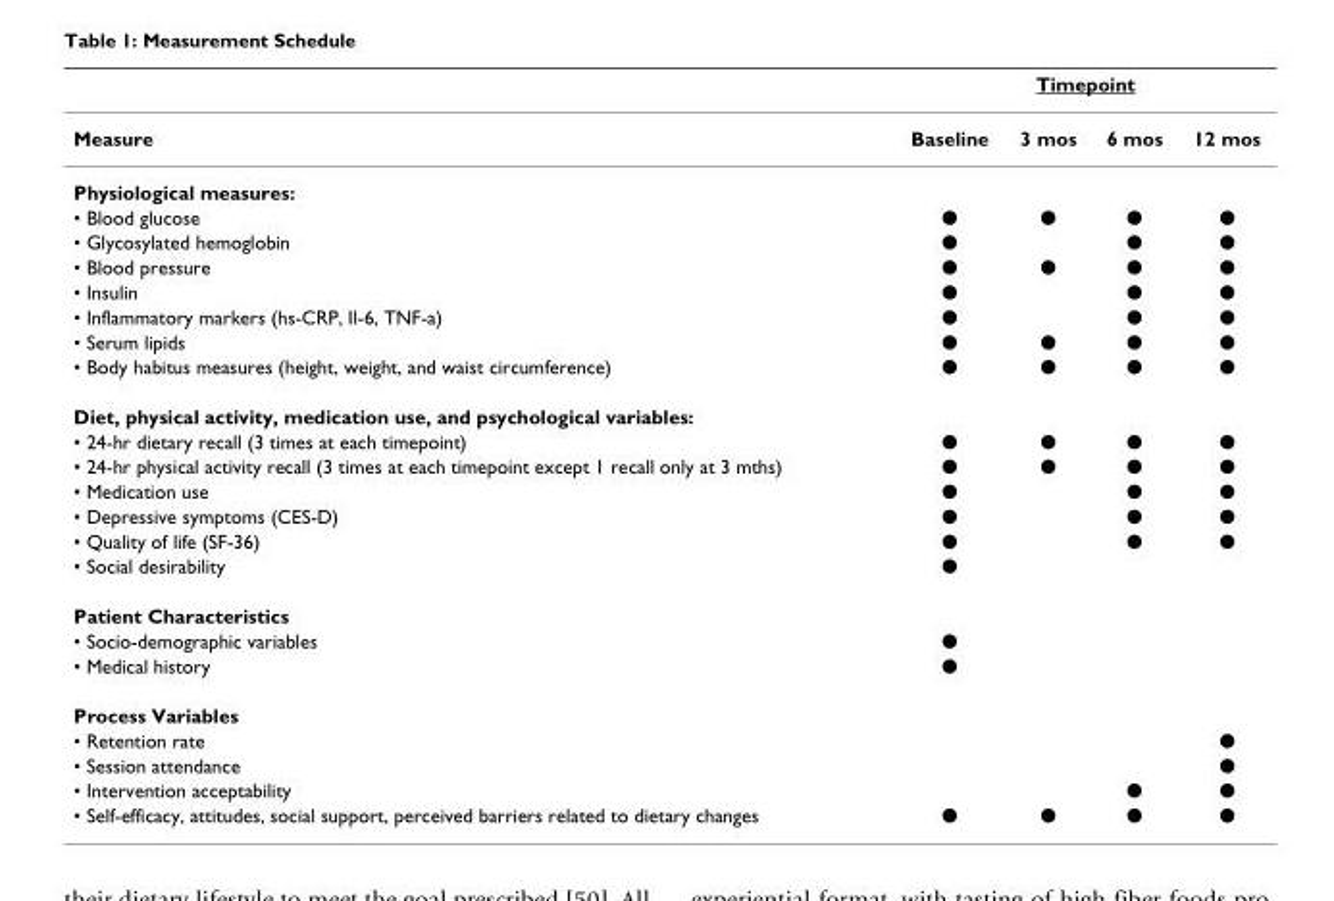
<table><thead><tr><td rowspan="2">Measure</td><td colspan="4">Timepoint</td></tr><tr><td>Baseline</td><td>3 mos</td><td>6 mos</td><td>12 mos</td></tr></thead><tbody><tr><td colspan="5">Physiological measures:</td></tr><tr><td>• Blood glucose</td><td>●</td><td>●</td><td>●</td><td>●</td></tr><tr><td>• Glycosylated hemoglobin</td><td>●</td><td></td><td>●</td><td>●</td></tr><tr><td>• Blood pressure</td><td>●</td><td>●</td><td>●</td><td>●</td></tr><tr><td>• Insulin</td><td>●</td><td></td><td>●</td><td>●</td></tr><tr><td>• Inflammatory markers (hs-CRP, Il-6, TNF-a)</td><td>●</td><td></td><td>●</td><td>●</td></tr><tr><td>• Serum lipids</td><td>●</td><td>●</td><td>●</td><td>●</td></tr><tr><td>• Body habitus measures (height, weight, and waist circumference)</td><td>●</td><td>●</td><td>●</td><td>●</td></tr><tr><td colspan="5">Diet, physical activity, medication use, and psychological variables:</td></tr><tr><td>• 24-hr dietary recall (3 times at each timepoint)</td><td>●</td><td>●</td><td>●</td><td>●</td></tr><tr><td>• 24-hr physical activity recall (3 times at each timepoint except 1 recall only at 3 mths)</td><td>●</td><td>●</td><td>●</td><td>●</td></tr><tr><td>• Medication use</td><td>●</td><td></td><td>●</td><td>●</td></tr><tr><td>• Depressive symptoms (CES-D)</td><td>●</td><td></td><td>●</td><td>●</td></tr><tr><td>• Quality of life (SF-36)</td><td>●</td><td></td><td>●</td><td>●</td></tr><tr><td>• Social desirability</td><td>●</td><td></td><td></td><td></td></tr><tr><td colspan="5">Patient Characteristics</td></tr><tr><td>• Socio-demographic variables</td><td>●</td><td></td><td></td><td></td></tr><tr><td>• Medical history</td><td>●</td><td></td><td></td><td></td></tr><tr><td colspan="5">Process Variables</td></tr><tr><td>• Retention rate</td><td></td><td></td><td></td><td>●</td></tr><tr><td>• Session attendance</td><td></td><td></td><td></td><td>●</td></tr><tr><td>• Intervention acceptability</td><td></td><td></td><td>●</td><td>●</td></tr><tr><td>• Self-efficacy, attitudes, social support, perceived barriers related to dietary changes</td><td>●</td><td>●</td><td>●</td><td>●</td></tr></tbody></table>